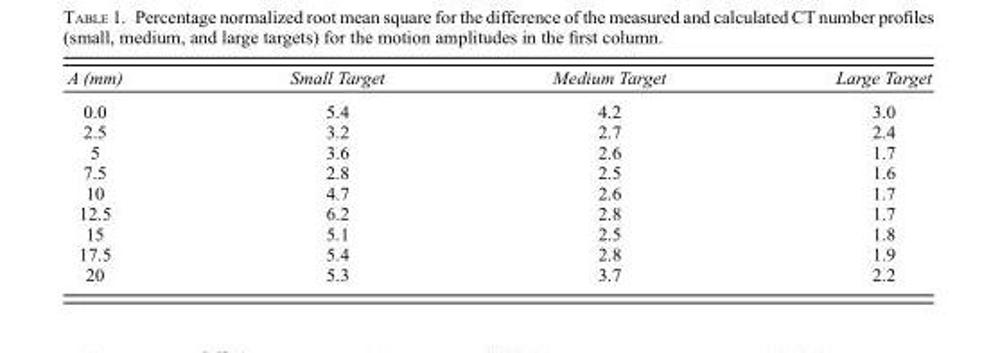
<table><thead><tr><td>A (mm)</td><td>Small Target</td><td>Medium Target</td><td>Large Target</td></tr></thead><tbody><tr><td>0.0</td><td>5.4</td><td>4.2</td><td>3.0</td></tr><tr><td>2.5</td><td>3.2</td><td>2.7</td><td>2.4</td></tr><tr><td>5</td><td>3.6</td><td>2.6</td><td>1.7</td></tr><tr><td>7.5</td><td>2.8</td><td>2.5</td><td>1.6</td></tr><tr><td>10</td><td>4.7</td><td>2.6</td><td>1.7</td></tr><tr><td>12.5</td><td>6.2</td><td>2.8</td><td>1.7</td></tr><tr><td>15</td><td>5.1</td><td>2.5</td><td>1.8</td></tr><tr><td>17.5</td><td>5.4</td><td>2.8</td><td>1.9</td></tr><tr><td>20</td><td>5.3</td><td>3.7</td><td>2.2</td></tr></tbody></table>